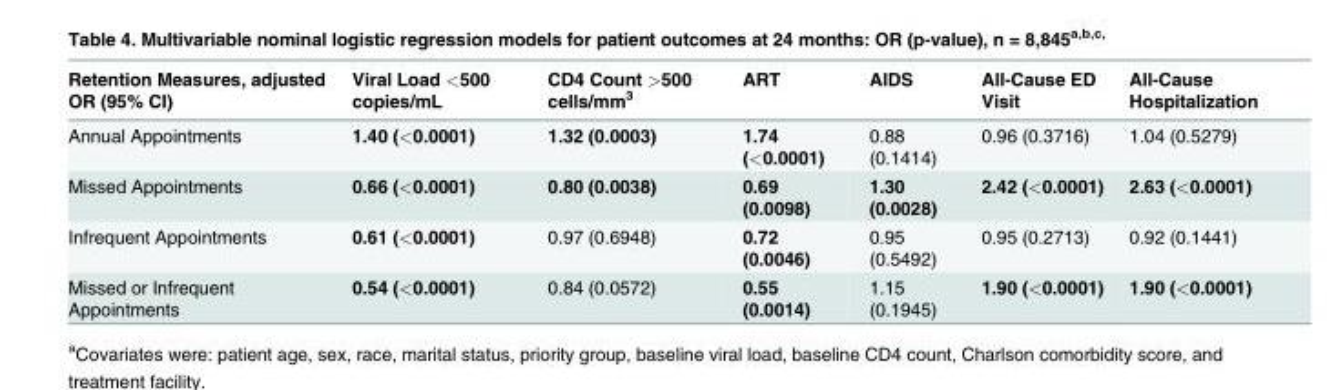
<table><thead><tr><td>Retention Measures, adjusted OR (95% CI)</td><td>Viral Load &lt;500 copies/mL</td><td>CD4 Count &gt;500 cells/mm<sup>3</sup></td><td>ART</td><td>AIDS</td><td>All-Cause ED Visit</td><td>All-Cause Hospitalization</td></tr></thead><tbody><tr><td>Annual Appointments</td><td>1.40 (&lt;0.0001)</td><td>1.32 (0.0003)</td><td>1.74 (&lt;0.0001)</td><td>0.88 (0.1414)</td><td>0.96 (0.3716)</td><td>1.04 (0.5279)</td></tr><tr><td>Missed Appointments</td><td>0.66 (&lt;0.0001)</td><td>0.80 (0.0038)</td><td>0.69 (0.0098)</td><td>1.30 (0.0028)</td><td>2.42 (&lt;0.0001)</td><td>2.63 (&lt;0.0001)</td></tr><tr><td>Infrequent Appointments</td><td>0.61 (&lt;0.0001)</td><td>0.97 (0.6948)</td><td>0.72 (0.0046)</td><td>0.95 (0.5492)</td><td>0.95 (0.2713)</td><td>0.92 (0.1441)</td></tr><tr><td>Missed or Infrequent Appointments</td><td>0.54 (&lt;0.0001)</td><td>0.84 (0.0572)</td><td>0.55 (0.0014)</td><td>1.15 (0.1945)</td><td>1.90 (&lt;0.0001)</td><td>1.90 (&lt;0.0001)</td></tr></tbody></table>